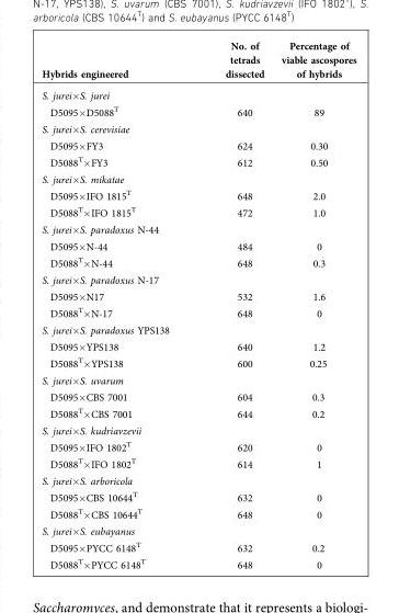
<table><thead><tr><td>Hybrids engineered</td><td>No. of tetrads dissected</td><td>Percentage of viable ascospores of hybrids</td></tr></thead><tbody><tr><td colspan="3">S. jurei×S. jurei</td></tr><tr><td>D5095×D5088<sup>T</sup></td><td>640</td><td>89</td></tr><tr><td colspan="3">S. jurei×S. cerevisiae</td></tr><tr><td>D5095×FY3</td><td>624</td><td>0.30</td></tr><tr><td>D5088<sup>T</sup>×FY3</td><td>612</td><td>0.50</td></tr><tr><td colspan="3">S. jurei×S. mikatae</td></tr><tr><td>D5095×IFO 1815<sup>T</sup></td><td>648</td><td>2.0</td></tr><tr><td>D5088<sup>T</sup>×IFO 1815<sup>T</sup></td><td>472</td><td>1.0</td></tr><tr><td colspan="3">S. jurei×S. paradoxus N-44</td></tr><tr><td>D5095×N-44</td><td>484</td><td>0</td></tr><tr><td>D5088<sup>T</sup>×N-44</td><td>648</td><td>0.3</td></tr><tr><td colspan="3">S. jurei×S. paradoxus N-17</td></tr><tr><td>D5095×N17</td><td>532</td><td>1.6</td></tr><tr><td>D5088<sup>T</sup>×N-17</td><td>648</td><td>0</td></tr><tr><td colspan="3">S. jurei×S. paradoxus YPS138</td></tr><tr><td>D5095×YPS138</td><td>640</td><td>1.2</td></tr><tr><td>D5088<sup>T</sup>×YPS138</td><td>600</td><td>0.25</td></tr><tr><td colspan="3">S. jurei×S. uvarum</td></tr><tr><td>D5095×CBS 7001</td><td>604</td><td>0.3</td></tr><tr><td>D5088<sup>T</sup>×CBS 7001</td><td>644</td><td>0.2</td></tr><tr><td colspan="3">S. jurei×S. kudriavzevii</td></tr><tr><td>D5095×IFO 1802<sup>T</sup></td><td>620</td><td>0</td></tr><tr><td>D5088<sup>T</sup>×IFO 1802<sup>T</sup></td><td>614</td><td>1</td></tr><tr><td colspan="3">S. jurei×S. arboricola</td></tr><tr><td>D5095×CBS 10644<sup>T</sup></td><td>632</td><td>0</td></tr><tr><td>D5088<sup>T</sup>×CBS 10644<sup>T</sup></td><td>648</td><td>0</td></tr><tr><td colspan="3">S. jurei×S. eubayanus</td></tr><tr><td>D5095×PYCC 6148<sup>T</sup></td><td>632</td><td>0.2</td></tr><tr><td>D5088<sup>T</sup>×PYCC 6148<sup>T</sup></td><td>648</td><td>0</td></tr></tbody></table>